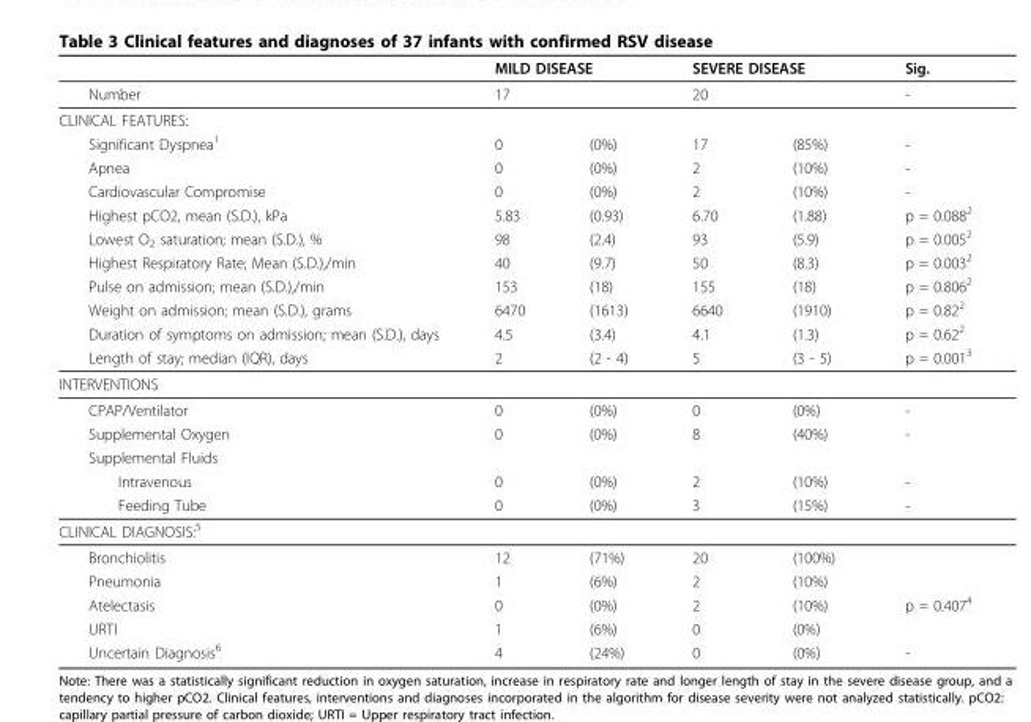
<table><thead><tr><td rowspan="3">Number CLINICAL FEATURES:</td><td rowspan="2" colspan="2">MILD DISEASE 17</td><td rowspan="2" colspan="2">SEVERE DISEASE 20</td><td rowspan="3">Sig. -</td></tr><tr></tr><tr><td></td><td></td><td></td><td></td></tr></thead><tbody><tr><td>Significant Dyspnea<sup>1</sup></td><td>0</td><td>(0%)</td><td>17</td><td>(85%)</td><td>-</td></tr><tr><td>Apnea</td><td>0</td><td>(0%)</td><td>2</td><td>(10%)</td><td>-</td></tr><tr><td>Cardiovascular Compromise</td><td>0</td><td>(0%)</td><td>2</td><td>(10%)</td><td>-</td></tr><tr><td>Highest pCO2, mean (S.D.), kPa</td><td>5.83</td><td>(0.93)</td><td>6.70</td><td>(1.88)</td><td>p = 0.088<sup>2</sup></td></tr><tr><td>Lowest O<sub>2</sub> saturation; mean (S.D.), %</td><td>98</td><td>(2.4)</td><td>93</td><td>(5.9)</td><td>p = 0.005<sup>2</sup></td></tr><tr><td>Highest Respiratory Rate; Mean (S.D.),/min</td><td>40</td><td>(9.7)</td><td>50</td><td>(8.3)</td><td>p = 0.003<sup>2</sup></td></tr><tr><td>Pulse on admission; mean (S.D.),/min</td><td>153</td><td>(18)</td><td>155</td><td>(18)</td><td>p = 0.806<sup>2</sup></td></tr><tr><td>Weight on admission; mean (S.D.), grams</td><td>6470</td><td>(1613)</td><td>6640</td><td>(1910)</td><td>p = 0.82<sup>2</sup></td></tr><tr><td>Duration of symptoms on admission; mean (S.D.), days</td><td>4.5</td><td>(3.4)</td><td>4.1</td><td>(1.3)</td><td>p = 0.62<sup>2</sup></td></tr><tr><td>Length of stay; median (IQR), days</td><td>2</td><td>(2 - 4)</td><td>5</td><td>(3 - 5)</td><td>p = 0.001<sup>3</sup></td></tr><tr><td colspan="6">INTERVENTIONS</td></tr><tr><td>CPAP/Ventilator</td><td>0</td><td>(0%)</td><td>0</td><td>(0%)</td><td>-</td></tr><tr><td>Supplemental Oxygen</td><td>0</td><td>(0%)</td><td>8</td><td>(40%)</td><td>-</td></tr><tr><td colspan="6">Supplemental Fluids</td></tr><tr><td>Intravenous</td><td>0</td><td>(0%)</td><td>2</td><td>(10%)</td><td>-</td></tr><tr><td>Feeding Tube</td><td>0</td><td>(0%)</td><td>3</td><td>(15%)</td><td>-</td></tr><tr><td colspan="6">CLINICAL DIAGNOSIS:<sup>5</sup></td></tr><tr><td>Bronchiolitis</td><td>12</td><td>(71%)</td><td>20</td><td>(100%)</td><td></td></tr><tr><td>Pneumonia</td><td>1</td><td>(6%)</td><td>2</td><td>(10%)</td><td></td></tr><tr><td>Atelectasis</td><td>0</td><td>(0%)</td><td>2</td><td>(10%)</td><td>p = 0.407<sup>4</sup></td></tr><tr><td>URTI</td><td>1</td><td>(6%)</td><td>0</td><td>(0%)</td><td></td></tr><tr><td>Uncertain Diagnosis<sup>6</sup></td><td>4</td><td>(24%)</td><td>0</td><td>(0%)</td><td>-</td></tr></tbody></table>